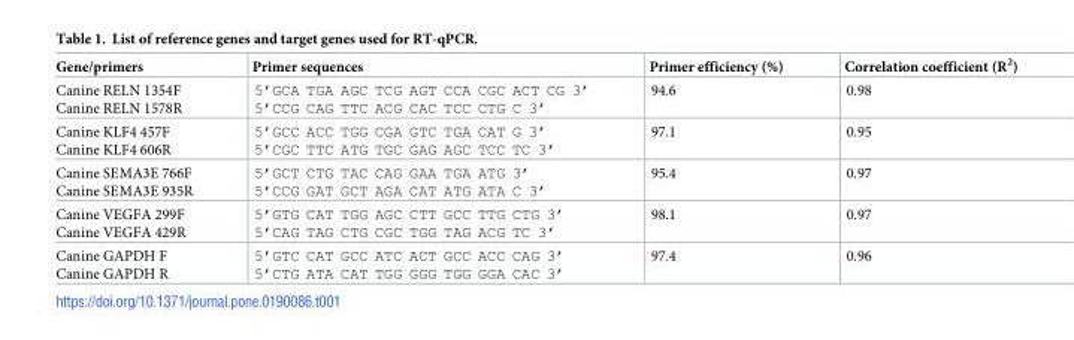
<table><thead><tr><td>Gene/primers</td><td>Primer sequences</td><td>Primer efficiency (%)</td><td>Correlation coefficient (R<sup>2</sup>)</td></tr></thead><tbody><tr><td>Canine RELN 1354F Canine RELN 1578R</td><td>5’GCA TGA AGC TCG AGT CCA CGC ACT CG 3’ 5’CCG CAG TTC ACG CAC TCC CTG C 3’</td><td>94.6</td><td>0.98</td></tr><tr><td>Canine KLF4 457F Canine KLF4 606R</td><td>5’GCC ACC TGG CGA GTC TGA CAT G 3’ 5’CGC TTC ATG TGC GAG AGC TCC TC 3’</td><td>97.1</td><td>0.95</td></tr><tr><td>Canine SEMA3E 766F Canine SEMA3E 935R</td><td>5’GCT CTG TAC CAG GAA TGA ATG 3’ 5’CCG GAT GCT AGA CAT ATG ATA C 3’</td><td>95.4</td><td>0.97</td></tr><tr><td>Canine VEGFA 299F Canine VEGFA 429R</td><td>5’GTG CAT TGG AGC CTT GCC TTG CTG 3’ 5’CAG TAG CTG CGC TGG TAG ACG TC 3’</td><td>98.1</td><td>0.97</td></tr><tr><td>Canine GAPDH F Canine GAPDH R</td><td>5’GTC CAT GCC ATC ACT GCC ACC CAG 3’ 5’CTG ATA CAT TGG GGG TGG GGA CAC 3’</td><td>97.4</td><td>0.96</td></tr></tbody></table>